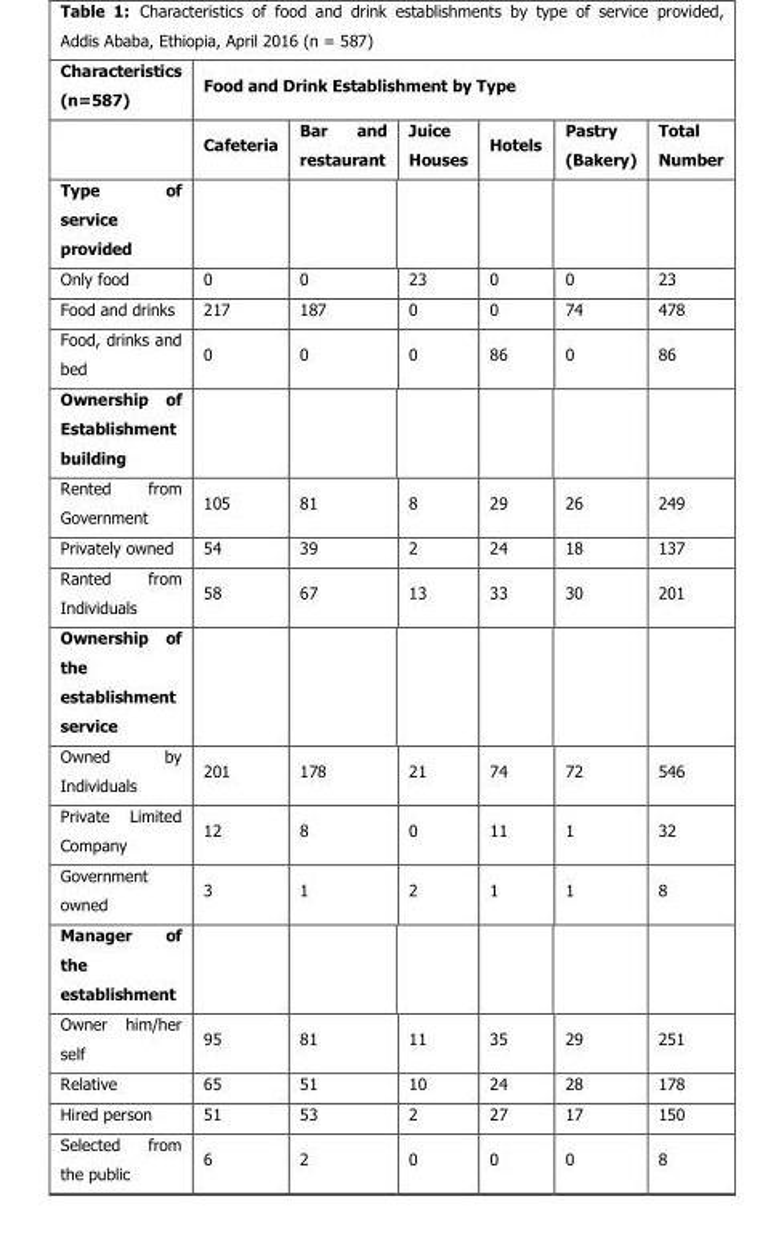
<table><thead><tr><td rowspan="2">Characteristics (n=587)</td><td colspan="6">Food and Drink Establishment by Type</td></tr><tr><td>Cafeteria</td><td>Bar and restaurant</td><td>Juice Houses</td><td>Hotels</td><td>Pastry (Bakery)</td><td>Total Number</td></tr></thead><tbody><tr><td colspan="7">Type of service provided</td></tr><tr><td>Only food</td><td>0</td><td>0</td><td>23</td><td>0</td><td>0</td><td>23</td></tr><tr><td>Food and drinks</td><td>217</td><td>187</td><td>0</td><td>0</td><td>74</td><td>478</td></tr><tr><td>Food, drinks and bed</td><td>0</td><td>0</td><td>0</td><td>86</td><td>0</td><td>86</td></tr><tr><td colspan="7">Ownership of Establishment building</td></tr><tr><td>Rented from Government</td><td>105</td><td>81</td><td>8</td><td>29</td><td>26</td><td>249</td></tr><tr><td>Privately owned</td><td>54</td><td>39</td><td>2</td><td>24</td><td>18</td><td>137</td></tr><tr><td>Ranted from Individuals</td><td>58</td><td>67</td><td>13</td><td>33</td><td>30</td><td>201</td></tr><tr><td colspan="7">Ownership of the establishment service</td></tr><tr><td>Owned by Individuals</td><td>201</td><td>178</td><td>21</td><td>74</td><td>72</td><td>546</td></tr><tr><td>Private Limited Company</td><td>12</td><td>8</td><td>0</td><td>11</td><td>1</td><td>32</td></tr><tr><td>Government owned</td><td>3</td><td>1</td><td>2</td><td>1</td><td>1</td><td>8</td></tr><tr><td colspan="7">Manager of the establishment</td></tr><tr><td>Owner him/her self</td><td>95</td><td>81</td><td>11</td><td>35</td><td>29</td><td>251</td></tr><tr><td>Relative</td><td>65</td><td>51</td><td>10</td><td>24</td><td>28</td><td>178</td></tr><tr><td>Hired person</td><td>51</td><td>53</td><td>2</td><td>27</td><td>17</td><td>150</td></tr><tr><td>Selected from the public</td><td>6</td><td>2</td><td>0</td><td>0</td><td>0</td><td>8</td></tr></tbody></table>